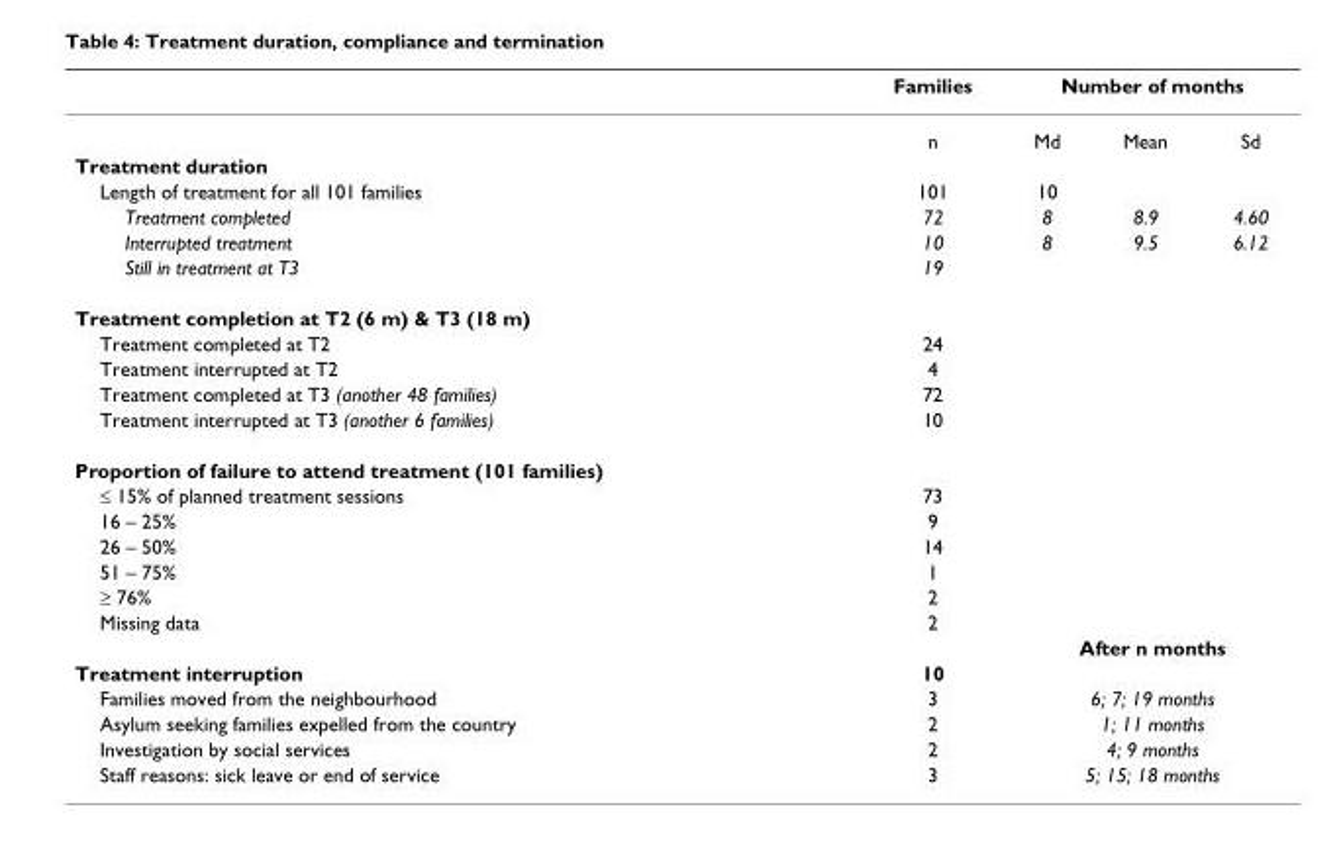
<table><thead><tr><td rowspan="2"></td><td rowspan="2">Families n</td><td colspan="3">Number of months</td></tr><tr><td>Md</td><td>Mean</td><td>Sd</td></tr></thead><tbody><tr><td colspan="5">Treatment duration</td></tr><tr><td>Length of treatment for all 101 families</td><td>101</td><td>10</td><td></td><td></td></tr><tr><td>Treatment completed</td><td>72</td><td>8</td><td>8.9</td><td>4.60</td></tr><tr><td>Interrupted treatment</td><td>10</td><td>8</td><td>9.5</td><td>6.12</td></tr><tr><td>Still in treatment at T3</td><td>19</td><td></td><td></td><td></td></tr><tr><td colspan="5">Treatment completion at T2 (6 m) &amp; T3 (18 m)</td></tr><tr><td>Treatment completed at T2</td><td>24</td><td></td><td></td><td></td></tr><tr><td>Treatment interrupted at T2</td><td>4</td><td></td><td></td><td></td></tr><tr><td>Treatment completed at T3 (another 48 families)</td><td>72</td><td></td><td></td><td></td></tr><tr><td>Treatment interrupted at T3 (another 6 families)</td><td>10</td><td></td><td></td><td></td></tr><tr><td colspan="5">Proportion of failure to attend treatment (101 families)</td></tr><tr><td>≤ 15% of planned treatment sessions</td><td>73</td><td></td><td></td><td></td></tr><tr><td>16 – 25%</td><td>9</td><td></td><td></td><td></td></tr><tr><td>26 – 50%</td><td>14</td><td></td><td></td><td></td></tr><tr><td>51 – 75%</td><td>1</td><td></td><td></td><td></td></tr><tr><td>≥ 76%</td><td>2</td><td></td><td></td><td></td></tr><tr><td rowspan="2">Missing data</td><td>2</td><td></td><td></td><td></td></tr><tr><td></td><td colspan="3">After n months</td></tr><tr><td>Treatment interruption</td><td>10</td><td></td><td></td><td></td></tr><tr><td>Families moved from the neighbourhood</td><td>3</td><td colspan="3">6; 7; 19 months</td></tr><tr><td>Asylum seeking families expelled from the country</td><td>2</td><td colspan="3">1; 11 months</td></tr><tr><td>Investigation by social services</td><td>2</td><td colspan="3">4; 9 months</td></tr><tr><td>Staff reasons: sick leave or end of service</td><td>3</td><td colspan="3">5; 15; 18 months</td></tr></tbody></table>